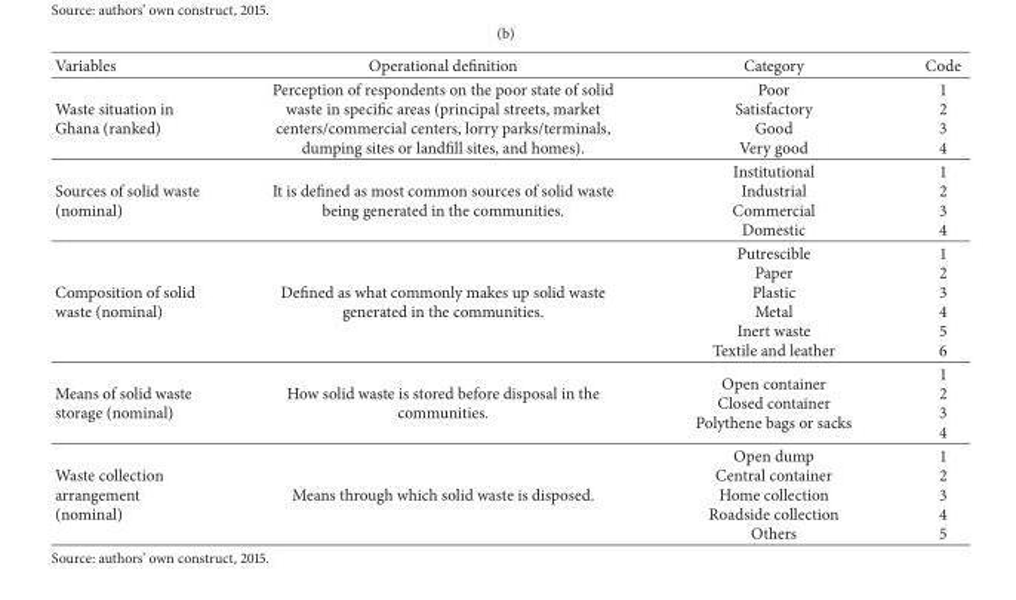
<table><thead><tr><td>Variables</td><td>Operational definition</td><td>Category</td><td>Code</td></tr></thead><tbody><tr><td>Waste situation in Ghana (ranked)</td><td>Perception of respondents on the poor state of solid waste in specific areas (principal streets, market centers/commercial centers, lorry parks/terminals, dumping sites or landfill sites, and homes).</td><td>Poor Satisfactory Good Very good</td><td>1 2 3 4</td></tr><tr><td>Sources of solid waste (nominal)</td><td>It is defined as most common sources of solid waste being generated in the communities.</td><td>Institutional Industrial Commercial Domestic</td><td>1 2 3 4</td></tr><tr><td>Composition of solid waste (nominal)</td><td>Defined as what commonly makes up solid waste generated in the communities.</td><td>Putrescible Paper Plastic Metal Inert waste Textile and leather</td><td>1 2 3 4 5 6</td></tr><tr><td>Means of solid waste storage (nominal)</td><td>How solid waste is stored before disposal in the communities.</td><td>Open container Closed container Polythene bags or sacks</td><td>1 2 3 4</td></tr><tr><td>Waste collection arrangement (nominal)</td><td>Means through which solid waste is disposed.</td><td>Open dump Central container Home collection Roadside collection Others</td><td>1 2 3 4 5</td></tr></tbody></table>